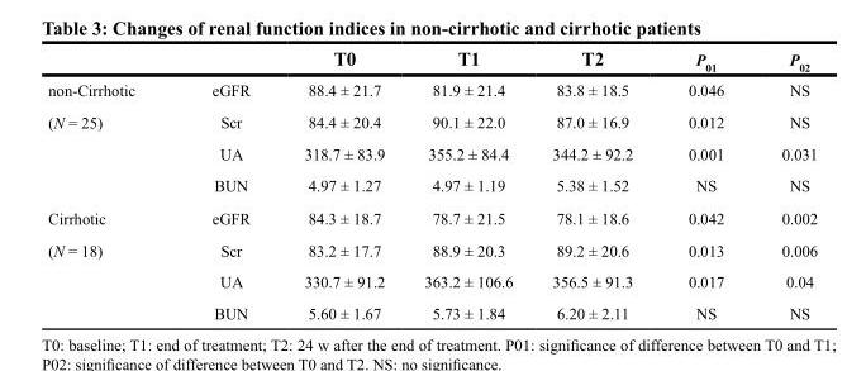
<table><thead><tr><td></td><td></td><td>T0</td><td>T1</td><td>T2</td><td>P<sub>01</sub></td><td>P<sub>02</sub></td></tr></thead><tbody><tr><td>non-Cirrhotic</td><td>eGFR</td><td>88.4 ± 21.7</td><td>81.9 ± 21.4</td><td>83.8 ± 18.5</td><td>0.046</td><td>NS</td></tr><tr><td rowspan="3">(N = 25)</td><td>Scr</td><td>84.4 ± 20.4</td><td>90.1 ± 22.0</td><td>87.0 ± 16.9</td><td>0.012</td><td>NS</td></tr><tr><td>UA</td><td>318.7 ± 83.9</td><td>355.2 ± 84.4</td><td>344.2 ± 92.2</td><td>0.001</td><td>0.031</td></tr><tr><td>BUN</td><td>4.97 ± 1.27</td><td>4.97 ± 1.19</td><td>5.38 ± 1.52</td><td>NS</td><td>NS</td></tr><tr><td>Cirrhotic</td><td>eGFR</td><td>84.3 ± 18.7</td><td>78.7 ± 21.5</td><td>78.1 ± 18.6</td><td>0.042</td><td>0.002</td></tr><tr><td rowspan="3">(N = 18)</td><td>Scr</td><td>83.2 ± 17.7</td><td>88.9 ± 20.3</td><td>89.2 ± 20.6</td><td>0.013</td><td>0.006</td></tr><tr><td>UA</td><td>330.7 ± 91.2</td><td>363.2 ± 106.6</td><td>356.5 ± 91.3</td><td>0.017</td><td>0.04</td></tr><tr><td>BUN</td><td>5.60 ± 1.67</td><td>5.73 ± 1.84</td><td>6.20 ± 2.11</td><td>NS</td><td>NS</td></tr></tbody></table>